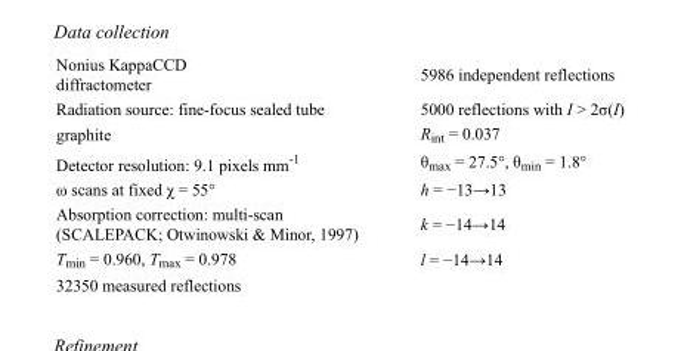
<table><tbody><tr><td>Nonius KappaCCD diffractometer</td><td>5986 independent reflections</td></tr><tr><td>Radiation source: fine-focus sealed tube</td><td>5000 reflections with I &gt; 2σ(I)</td></tr><tr><td>graphite</td><td>R<sub>int</sub> = 0.037</td></tr><tr><td>Detector resolution: 9.1 pixels mm<sup>-1</sup></td><td>θ<sub>max</sub> = 27.5°, θ<sub>min</sub> = 1.8°</td></tr><tr><td>ω scans at fixed χ = 55°</td><td>h = −13→13</td></tr><tr><td>Absorption correction: multi-scan (SCALEPACK; Otwinowski &amp; Minor, 1997)</td><td>k = −14→14</td></tr><tr><td>T<sub>min</sub> = 0.960, T<sub>max</sub> = 0.978</td><td>l = −14→14</td></tr><tr><td>32350 measured reflections</td><td></td></tr></tbody></table>